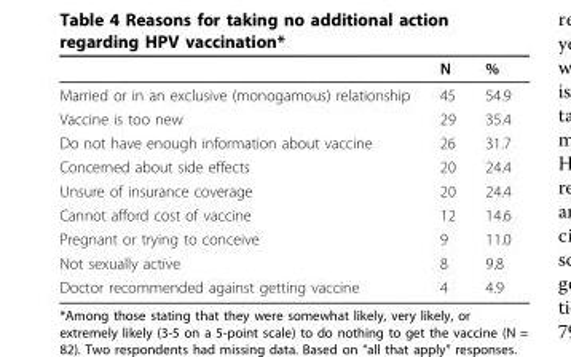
<table><thead><tr><td></td><td>N</td><td>%</td></tr></thead><tbody><tr><td>Married or in an exclusive (monogamous) relationship</td><td>45</td><td>54.9</td></tr><tr><td>Vaccine is too new</td><td>29</td><td>35.4</td></tr><tr><td>Do not have enough information about vaccine</td><td>26</td><td>31.7</td></tr><tr><td>Concerned about side effects</td><td>20</td><td>24.4</td></tr><tr><td>Unsure of insurance coverage</td><td>20</td><td>24.4</td></tr><tr><td>Cannot afford cost of vaccine</td><td>12</td><td>14.6</td></tr><tr><td>Pregnant or trying to conceive</td><td>9</td><td>11.0</td></tr><tr><td>Not sexually active</td><td>8</td><td>9.8</td></tr><tr><td>Doctor recommended against getting vaccine</td><td>4</td><td>4.9</td></tr></tbody></table>